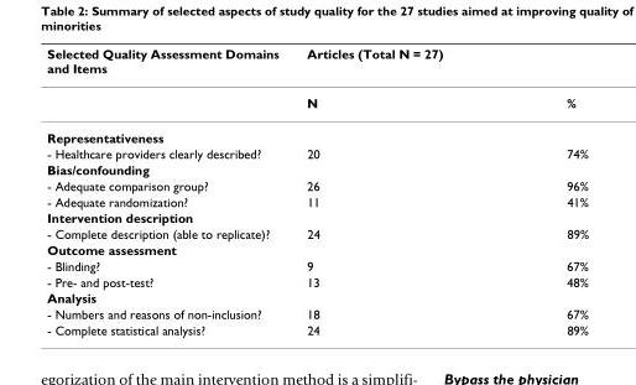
<table><thead><tr><td rowspan="2">Selected Quality Assessment Domains and Items</td><td colspan="2">Articles (Total N = 27)</td></tr><tr><td>N</td><td>%</td></tr></thead><tbody><tr><td colspan="3">Representativeness</td></tr><tr><td>- Healthcare providers clearly described?</td><td>20</td><td>74%</td></tr><tr><td colspan="3">Bias/confounding</td></tr><tr><td>- Adequate comparison group?</td><td>26</td><td>96%</td></tr><tr><td>- Adequate randomization?</td><td>11</td><td>41%</td></tr><tr><td colspan="3">Intervention description</td></tr><tr><td>- Complete description (able to replicate)?</td><td>24</td><td>89%</td></tr><tr><td colspan="3">Outcome assessment</td></tr><tr><td>- Blinding?</td><td>9</td><td>67%</td></tr><tr><td>- Pre- and post-test?</td><td>13</td><td>48%</td></tr><tr><td colspan="3">Analysis</td></tr><tr><td>- Numbers and reasons of non-inclusion?</td><td>18</td><td>67%</td></tr><tr><td>- Complete statistical analysis?</td><td>24</td><td>89%</td></tr></tbody></table>